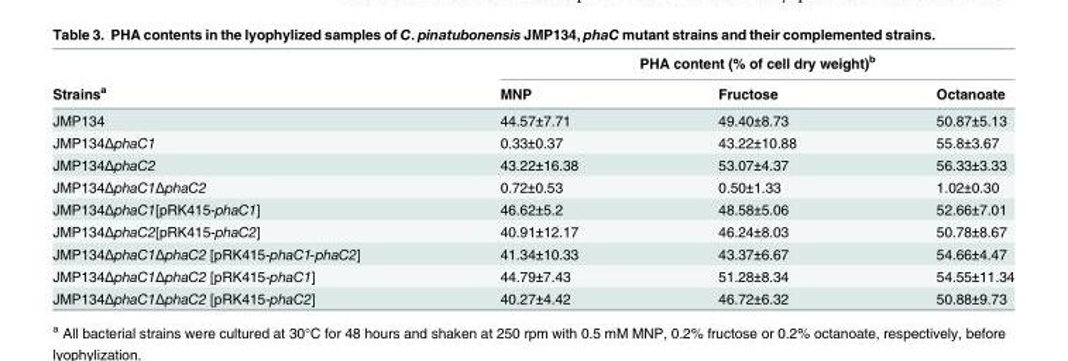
<table><thead><tr><td rowspan="2">Strains<sup>a</sup></td><td colspan="3">PHA content (% of cell dry weight)<sup>b</sup></td></tr><tr><td>MNP</td><td>Fructose</td><td>Octanoate</td></tr></thead><tbody><tr><td>JMP134</td><td>44.57±7.71</td><td>49.40±8.73</td><td>50.87±5.13</td></tr><tr><td>JMP134ΔphaC1</td><td>0.33±0.37</td><td>43.22±10.88</td><td>55.8±3.67</td></tr><tr><td>JMP134ΔphaC2</td><td>43.22±16.38</td><td>53.07±4.37</td><td>56.33±3.33</td></tr><tr><td>JMP134ΔphaC1ΔphaC2</td><td>0.72±0.53</td><td>0.50±1.33</td><td>1.02±0.30</td></tr><tr><td>JMP134ΔphaC1[pRK415-phaC1]</td><td>46.62±5.2</td><td>48.58±5.06</td><td>52.66±7.01</td></tr><tr><td>JMP134ΔphaC2[pRK415-phaC2]</td><td>40.91±12.17</td><td>46.24±8.03</td><td>50.78±8.67</td></tr><tr><td>JMP134ΔphaC1ΔphaC2 [pRK415-phaC1-phaC2]</td><td>41.34±10.33</td><td>43.37±6.67</td><td>54.66±4.47</td></tr><tr><td>JMP134ΔphaC1ΔphaC2 [pRK415-phaC1]</td><td>44.79±7.43</td><td>51.28±8.34</td><td>54.55±11.34</td></tr><tr><td>JMP134ΔphaC1ΔphaC2 [pRK415-phaC2]</td><td>40.27±4.42</td><td>46.72±6.32</td><td>50.88±9.73</td></tr></tbody></table>